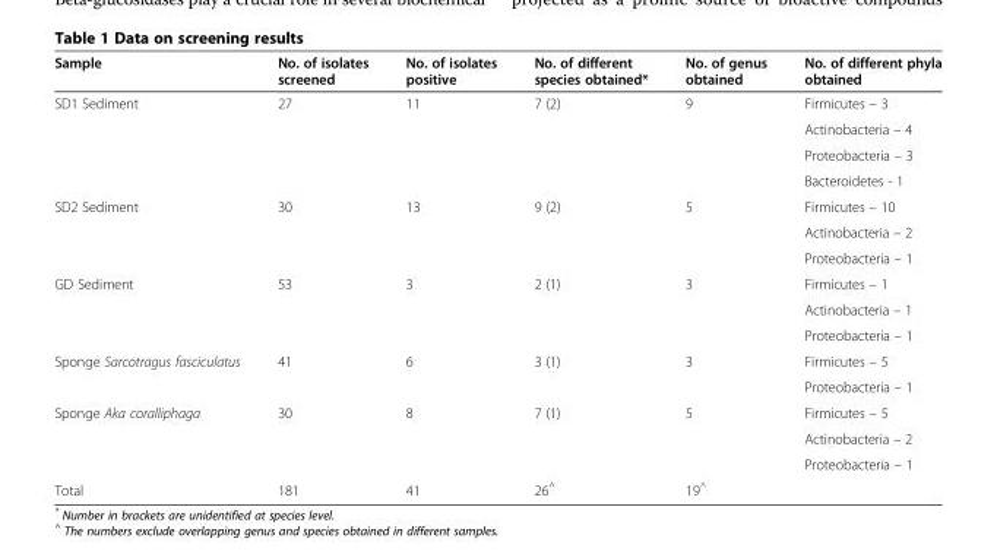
<table><thead><tr><td>Sample</td><td>No. of isolates screened</td><td>No. of isolates positive</td><td>No. of different species obtained*</td><td>No. of genus obtained</td><td>No. of different phyla obtained</td></tr></thead><tbody><tr><td rowspan="4">SD1 Sediment</td><td rowspan="4">27</td><td rowspan="4">11</td><td rowspan="4">7 (2)</td><td rowspan="4">9</td><td>Firmicutes – 3</td></tr><tr><td>Actinobacteria – 4</td></tr><tr><td>Proteobacteria – 3</td></tr><tr><td>Bacteroidetes - 1</td></tr><tr><td rowspan="3">SD2 Sediment</td><td rowspan="3">30</td><td rowspan="3">13</td><td rowspan="3">9 (2)</td><td rowspan="3">5</td><td>Firmicutes – 10</td></tr><tr><td>Actinobacteria – 2</td></tr><tr><td>Proteobacteria – 1</td></tr><tr><td rowspan="3">GD Sediment</td><td rowspan="3">53</td><td rowspan="3">3</td><td rowspan="3">2 (1)</td><td rowspan="3">3</td><td>Firmicutes – 1</td></tr><tr><td>Actinobacteria – 1</td></tr><tr><td>Proteobacteria – 1</td></tr><tr><td rowspan="2">Sponge Sarcotragus fasciculatus</td><td rowspan="2">41</td><td rowspan="2">6</td><td rowspan="2">3 (1)</td><td rowspan="2">3</td><td>Firmicutes – 5</td></tr><tr><td>Proteobacteria – 1</td></tr><tr><td rowspan="3">Sponge Aka coralliphaga</td><td rowspan="3">30</td><td rowspan="3">8</td><td rowspan="3">7 (1)</td><td rowspan="3">5</td><td>Firmicutes – 5</td></tr><tr><td>Actinobacteria – 2</td></tr><tr><td>Proteobacteria – 1</td></tr><tr><td>Total</td><td>181</td><td>41</td><td>26<sup>^</sup></td><td>19<sup>^</sup></td><td></td></tr></tbody></table>